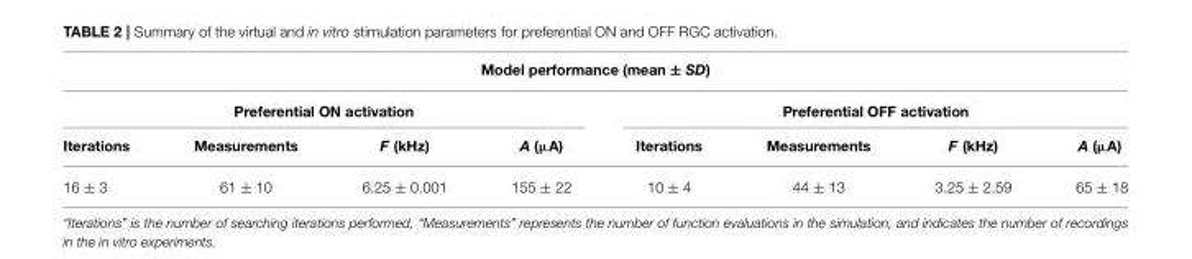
<table><thead><tr><td colspan="8">Model performance (mean ± SD)</td></tr><tr><td colspan="4">Preferential ON activation</td><td colspan="4">Preferential OFF activation</td></tr><tr><td>Iterations</td><td>Measurements</td><td>F (kHz)</td><td>A (µA)</td><td>Iterations</td><td>Measurements</td><td>F (kHz)</td><td>A (µA)</td></tr></thead><tbody><tr><td>16 ± 3</td><td>61 ± 10</td><td>6.25 ± 0.001</td><td>155 ± 22</td><td>10 ± 4</td><td>44 ± 13</td><td>3.25 ± 2.59</td><td>65 ± 18</td></tr></tbody></table>